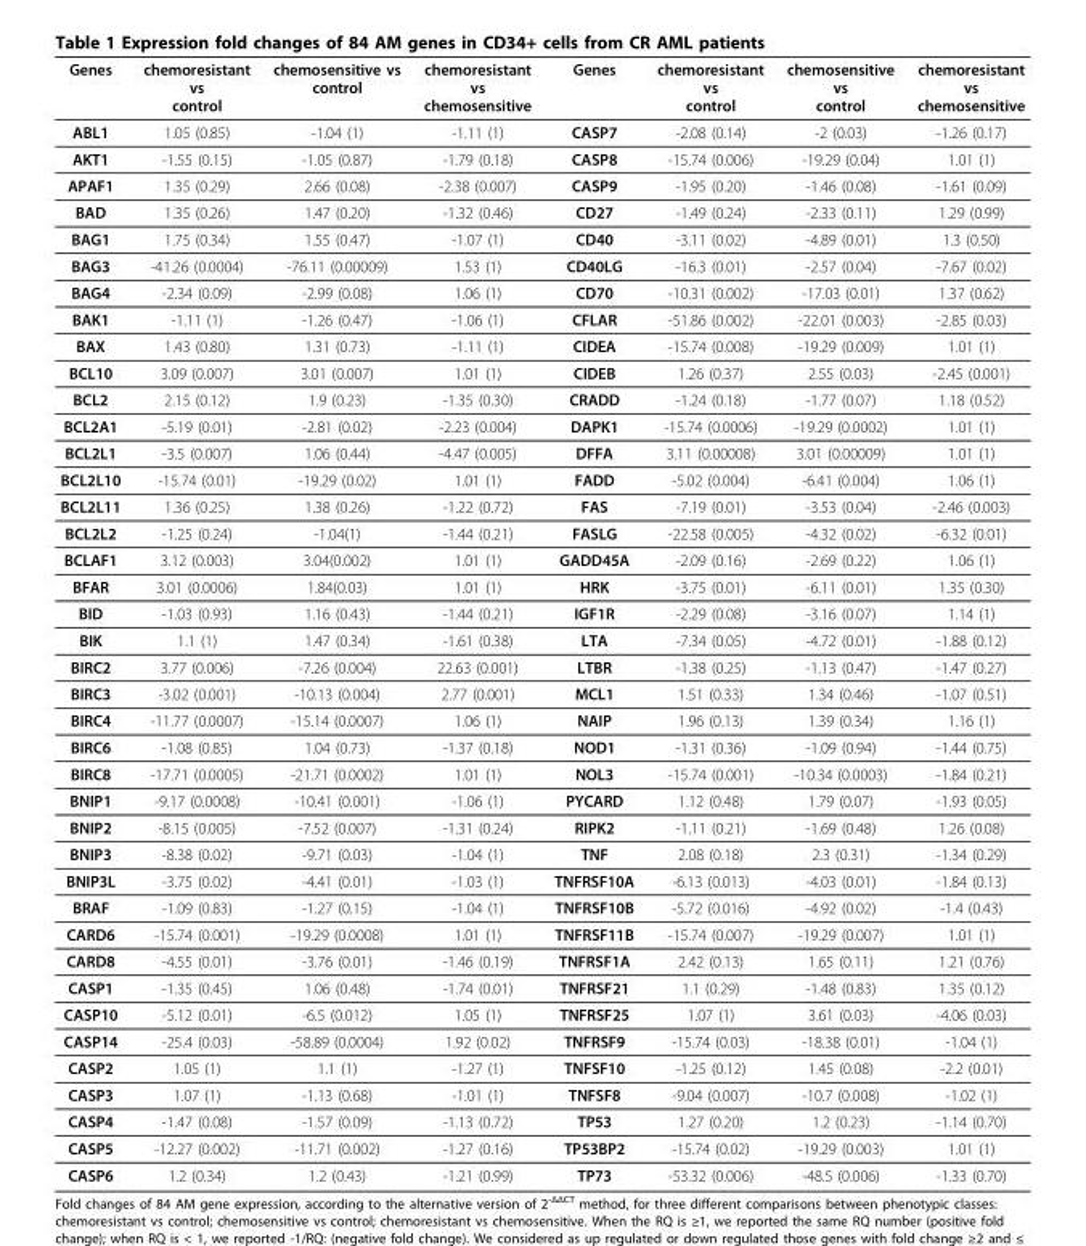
<table><thead><tr><td>Genes</td><td>chemoresistant vs control</td><td>chemosensitive vs control</td><td>chemoresistant vs chemosensitive</td><td>Genes</td><td>chemoresistant vs control</td><td>chemosensitive vs control</td><td>chemoresistant vs chemosensitive</td></tr></thead><tbody><tr><td>ABL1</td><td>1.05 (0.85)</td><td>-1.04 (1)</td><td>-1.11 (1)</td><td>CASP7</td><td>-2.08 (0.14)</td><td>-2 (0.03)</td><td>-1.26 (0.17)</td></tr><tr><td>AKT1</td><td>-1.55 (0.15)</td><td>-1.05 (0.87)</td><td>-1.79 (0.18)</td><td>CASP8</td><td>-15.74 (0.006)</td><td>-19.29 (0.04)</td><td>1.01 (1)</td></tr><tr><td>APAF1</td><td>1.35 (0.29)</td><td>2.66 (0.08)</td><td>-2.38 (0.007)</td><td>CASP9</td><td>-1.95 (0.20)</td><td>-1.46 (0.08)</td><td>-1.61 (0.09)</td></tr><tr><td>BAD</td><td>1.35 (0.26)</td><td>1.47 (0.20)</td><td>-1.32 (0.46)</td><td>CD27</td><td>-1.49 (0.24)</td><td>-2.33 (0.11)</td><td>1.29 (0.99)</td></tr><tr><td>BAG1</td><td>1.75 (0.34)</td><td>1.55 (0.47)</td><td>-1.07 (1)</td><td>CD40</td><td>-3.11 (0.02)</td><td>-4.89 (0.01)</td><td>1.3 (0.50)</td></tr><tr><td>BAG3</td><td>-41.26 (0.0004)</td><td>-76.11 (0.00009)</td><td>1.53 (1)</td><td>CD40LG</td><td>-16.3 (0.01)</td><td>-2.57 (0.04)</td><td>-7.67 (0.02)</td></tr><tr><td>BAG4</td><td>-2.34 (0.09)</td><td>-2.99 (0.08)</td><td>1.06 (1)</td><td>CD70</td><td>-10.31 (0.002)</td><td>-17.03 (0.01)</td><td>1.37 (0.62)</td></tr><tr><td>BAK1</td><td>-1.11 (1)</td><td>-1.26 (0.47)</td><td>-1.06 (1)</td><td>CFLAR</td><td>-51.86 (0.002)</td><td>-22.01 (0.003)</td><td>-2.85 (0.03)</td></tr><tr><td>BAX</td><td>1.43 (0.80)</td><td>1.31 (0.73)</td><td>-1.11 (1)</td><td>CIDEA</td><td>-15.74 (0.008)</td><td>-19.29 (0.009)</td><td>1.01 (1)</td></tr><tr><td>BCL10</td><td>3.09 (0.007)</td><td>3.01 (0.007)</td><td>1.01 (1)</td><td>CIDEB</td><td>1.26 (0.37)</td><td>2.55 (0.03)</td><td>-2.45 (0.001)</td></tr><tr><td>BCL2</td><td>2.15 (0.12)</td><td>1.9 (0.23)</td><td>-1.35 (0.30)</td><td>CRADD</td><td>-1.24 (0.18)</td><td>-1.77 (0.07)</td><td>1.18 (0.52)</td></tr><tr><td>BCL2A1</td><td>-5.19 (0.01)</td><td>-2.81 (0.02)</td><td>-2.23 (0.004)</td><td>DAPK1</td><td>-15.74 (0.0006)</td><td>-19.29 (0.0002)</td><td>1.01 (1)</td></tr><tr><td>BCL2L1</td><td>-3.5 (0.007)</td><td>1.06 (0.44)</td><td>-4.47 (0.005)</td><td>DFFA</td><td>3.11 (0.00008)</td><td>3.01 (0.00009)</td><td>1.01 (1)</td></tr><tr><td>BCL2L10</td><td>-15.74 (0.01)</td><td>-19.29 (0.02)</td><td>1.01 (1)</td><td>FADD</td><td>-5.02 (0.004)</td><td>-6.41 (0.004)</td><td>1.06 (1)</td></tr><tr><td>BCL2L11</td><td>1.36 (0.25)</td><td>1.38 (0.26)</td><td>-1.22 (0.72)</td><td>FAS</td><td>-7.19 (0.01)</td><td>-3.53 (0.04)</td><td>-2.46 (0.003)</td></tr><tr><td>BCL2L2</td><td>-1.25 (0.24)</td><td>-1.04(1)</td><td>-1.44 (0.21)</td><td>FASLG</td><td>-22.58 (0.005)</td><td>-4.32 (0.02)</td><td>-6.32 (0.01)</td></tr><tr><td>BCLAF1</td><td>3.12 (0.003)</td><td>3.04(0.002)</td><td>1.01 (1)</td><td>GADD45A</td><td>-2.09 (0.16)</td><td>-2.69 (0.22)</td><td>1.06 (1)</td></tr><tr><td>BFAR</td><td>3.01 (0.0006)</td><td>1.84(0.03)</td><td>1.01 (1)</td><td>HRK</td><td>-3.75 (0.01)</td><td>-6.11 (0.01)</td><td>1.35 (0.30)</td></tr><tr><td>BID</td><td>-1.03 (0.93)</td><td>1.16 (0.43)</td><td>-1.44 (0.21)</td><td>IGF1R</td><td>-2.29 (0.08)</td><td>-3.16 (0.07)</td><td>1.14 (1)</td></tr><tr><td>BIK</td><td>1.1 (1)</td><td>1.47 (0.34)</td><td>-1.61 (0.38)</td><td>LTA</td><td>-7.34 (0.05)</td><td>-4.72 (0.01)</td><td>-1.88 (0.12)</td></tr><tr><td>BIRC2</td><td>3.77 (0.006)</td><td>-7.26 (0.004)</td><td>22.63 (0.001)</td><td>LTBR</td><td>-1.38 (0.25)</td><td>-1.13 (0.47)</td><td>-1.47 (0.27)</td></tr><tr><td>BIRC3</td><td>-3.02 (0.001)</td><td>-10.13 (0.004)</td><td>2.77 (0.001)</td><td>MCL1</td><td>1.51 (0.33)</td><td>1.34 (0.46)</td><td>-1.07 (0.51)</td></tr><tr><td>BIRC4</td><td>-11.77 (0.0007)</td><td>-15.14 (0.0007)</td><td>1.06 (1)</td><td>NAIP</td><td>1.96 (0.13)</td><td>1.39 (0.34)</td><td>1.16 (1)</td></tr><tr><td>BIRC6</td><td>-1.08 (0.85)</td><td>1.04 (0.73)</td><td>-1.37 (0.18)</td><td>NOD1</td><td>-1.31 (0.36)</td><td>-1.09 (0.94)</td><td>-1.44 (0.75)</td></tr><tr><td>BIRC8</td><td>-17.71 (0.0005)</td><td>-21.71 (0.0002)</td><td>1.01 (1)</td><td>NOL3</td><td>-15.74 (0.001)</td><td>-10.34 (0.0003)</td><td>-1.84 (0.21)</td></tr><tr><td>BNIP1</td><td>-9.17 (0.0008)</td><td>-10.41 (0.001)</td><td>-1.06 (1)</td><td>PYCARD</td><td>1.12 (0.48)</td><td>1.79 (0.07)</td><td>-1.93 (0.05)</td></tr><tr><td>BNIP2</td><td>-8.15 (0.005)</td><td>-7.52 (0.007)</td><td>-1.31 (0.24)</td><td>RIPK2</td><td>-1.11 (0.21)</td><td>-1.69 (0.48)</td><td>1.26 (0.08)</td></tr><tr><td>BNIP3</td><td>-8.38 (0.02)</td><td>-9.71 (0.03)</td><td>-1.04 (1)</td><td>TNF</td><td>2.08 (0.18)</td><td>2.3 (0.31)</td><td>-1.34 (0.29)</td></tr><tr><td>BNIP3L</td><td>-3.75 (0.02)</td><td>-4.41 (0.01)</td><td>-1.03 (1)</td><td>TNFRSF10A</td><td>-6.13 (0.013)</td><td>-4.03 (0.01)</td><td>-1.84 (0.13)</td></tr><tr><td>BRAF</td><td>-1.09 (0.83)</td><td>-1.27 (0.15)</td><td>-1.04 (1)</td><td>TNFRSF10B</td><td>-5.72 (0.016)</td><td>-4.92 (0.02)</td><td>-1.4 (0.43)</td></tr><tr><td>CARD6</td><td>-15.74 (0.001)</td><td>-19.29 (0.0008)</td><td>1.01 (1)</td><td>TNFRSF11B</td><td>-15.74 (0.007)</td><td>-19.29 (0.007)</td><td>1.01 (1)</td></tr><tr><td>CARD8</td><td>-4.55 (0.01)</td><td>-3.76 (0.01)</td><td>-1.46 (0.19)</td><td>TNFRSF1A</td><td>2.42 (0.13)</td><td>1.65 (0.11)</td><td>1.21 (0.76)</td></tr><tr><td>CASP1</td><td>-1.35 (0.45)</td><td>1.06 (0.48)</td><td>-1.74 (0.01)</td><td>TNFRSF21</td><td>1.1 (0.29)</td><td>-1.48 (0.83)</td><td>1.35 (0.12)</td></tr><tr><td>CASP10</td><td>-5.12 (0.01)</td><td>-6.5 (0.012)</td><td>1.05 (1)</td><td>TNFRSF25</td><td>1.07 (1)</td><td>3.61 (0.03)</td><td>-4.06 (0.03)</td></tr><tr><td>CASP14</td><td>-25.4 (0.03)</td><td>-58.89 (0.0004)</td><td>1.92 (0.02)</td><td>TNFRSF9</td><td>-15.74 (0.03)</td><td>-18.38 (0.01)</td><td>-1.04 (1)</td></tr><tr><td>CASP2</td><td>1.05 (1)</td><td>1.1 (1)</td><td>-1.27 (1)</td><td>TNFSF10</td><td>-1.25 (0.12)</td><td>1.45 (0.08)</td><td>-2.2 (0.01)</td></tr><tr><td>CASP3</td><td>1.07 (1)</td><td>-1.13 (0.68)</td><td>-1.01 (1)</td><td>TNFSF8</td><td>-9.04 (0.007)</td><td>-10.7 (0.008)</td><td>-1.02 (1)</td></tr><tr><td>CASP4</td><td>-1.47 (0.08)</td><td>-1.57 (0.09)</td><td>-1.13 (0.72)</td><td>TP53</td><td>1.27 (0.20)</td><td>1.2 (0.23)</td><td>-1.14 (0.70)</td></tr><tr><td>CASP5</td><td>-12.27 (0.002)</td><td>-11.71 (0.002)</td><td>-1.27 (0.16)</td><td>TP53BP2</td><td>-15.74 (0.02)</td><td>-19.29 (0.003)</td><td>1.01 (1)</td></tr><tr><td>CASP6</td><td>1.2 (0.34)</td><td>1.2 (0.43)</td><td>-1.21 (0.99)</td><td>TP73</td><td>-53.32 (0.006)</td><td>-48.5 (0.006)</td><td>-1.33 (0.70)</td></tr></tbody></table>